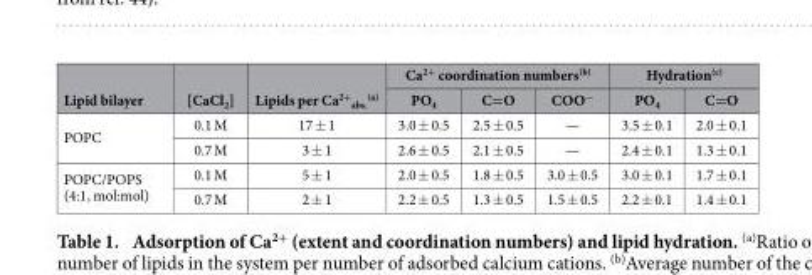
<table><thead><tr><td rowspan="2">Lipid bilayer</td><td rowspan="2">[CaCl<sub>2</sub>]</td><td rowspan="2">Lipids per Ca<sup>2+</sup> <sub>abs.</sub> (a)</td><td colspan="3">Ca<sup>2+</sup> coordination numbers(b)</td><td colspan="2">Hydration(c)</td></tr><tr><td>PO<sub>4</sub></td><td>C=O</td><td>COO<sup>−</sup></td><td>PO<sub>4</sub></td><td>C=O</td></tr></thead><tbody><tr><td rowspan="2">POPC</td><td>0.1 M</td><td>17 ± 1</td><td>3.0 ± 0.5</td><td>2.5 ± 0.5</td><td>—</td><td>3.5 ± 0.1</td><td>2.0 ± 0.1</td></tr><tr><td>0.7 M</td><td>3 ± 1</td><td>2.6 ± 0.5</td><td>2.1 ± 0.5</td><td>—</td><td>2.4 ± 0.1</td><td>1.3 ± 0.1</td></tr><tr><td rowspan="2">POPC/POPS (4:1, mol:mol)</td><td>0.1 M</td><td>5 ± 1</td><td>2.0 ± 0.5</td><td>1.8 ± 0.5</td><td>3.0 ± 0.5</td><td>3.0 ± 0.1</td><td>1.7 ± 0.1</td></tr><tr><td>0.7 M</td><td>2 ± 1</td><td>2.2 ± 0.5</td><td>1.3 ± 0.5</td><td>1.5 ± 0.5</td><td>2.2 ± 0.1</td><td>1.4 ± 0.1</td></tr></tbody></table>